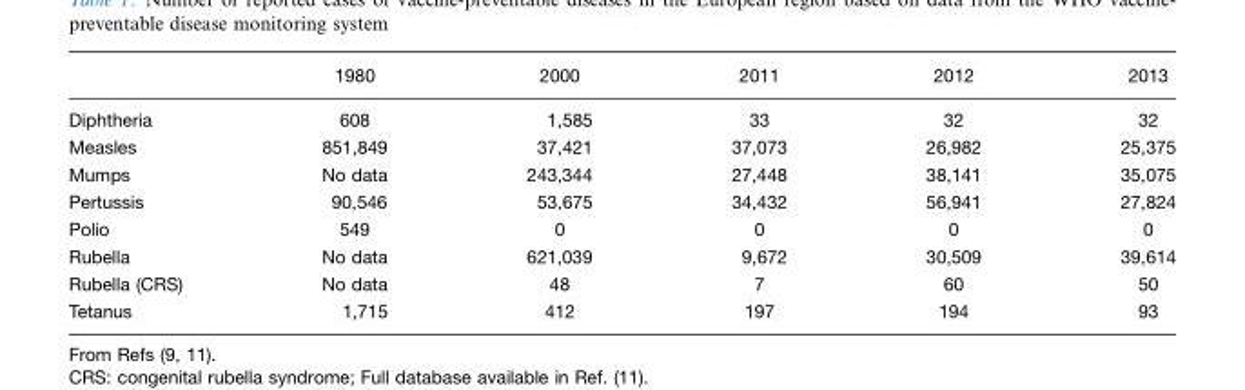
<table><thead><tr><td></td><td>1980</td><td>2000</td><td>2011</td><td>2012</td><td>2013</td></tr></thead><tbody><tr><td>Diphtheria</td><td>608</td><td>1,585</td><td>33</td><td>32</td><td>32</td></tr><tr><td>Measles</td><td>851,849</td><td>37,421</td><td>37,073</td><td>26,982</td><td>25,375</td></tr><tr><td>Mumps</td><td>No data</td><td>243,344</td><td>27,448</td><td>38,141</td><td>35,075</td></tr><tr><td>Pertussis</td><td>90,546</td><td>53,675</td><td>34,432</td><td>56,941</td><td>27,824</td></tr><tr><td>Polio</td><td>549</td><td>0</td><td>0</td><td>0</td><td>0</td></tr><tr><td>Rubella</td><td>No data</td><td>621,039</td><td>9,672</td><td>30,509</td><td>39,614</td></tr><tr><td>Rubella (CRS)</td><td>No data</td><td>48</td><td>7</td><td>60</td><td>50</td></tr><tr><td>Tetanus</td><td>1,715</td><td>412</td><td>197</td><td>194</td><td>93</td></tr></tbody></table>